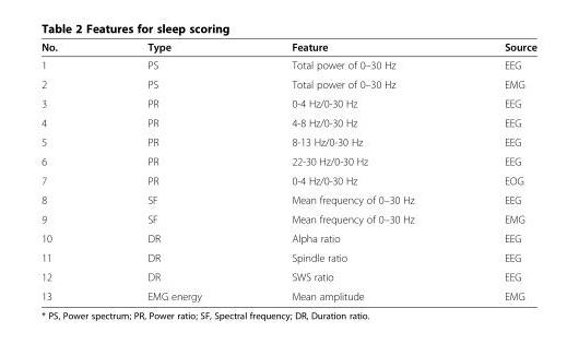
<table><thead><tr><td>No.</td><td>Type</td><td>Feature</td><td>Source</td></tr></thead><tbody><tr><td>1</td><td>PS</td><td>Total power of 0–30 Hz</td><td>EEG</td></tr><tr><td>2</td><td>PS</td><td>Total power of 0–30 Hz</td><td>EMG</td></tr><tr><td>3</td><td>PR</td><td>0-4 Hz/0-30 Hz</td><td>EEG</td></tr><tr><td>4</td><td>PR</td><td>4-8 Hz/0-30 Hz</td><td>EEG</td></tr><tr><td>5</td><td>PR</td><td>8-13 Hz/0-30 Hz</td><td>EEG</td></tr><tr><td>6</td><td>PR</td><td>22-30 Hz/0-30 Hz</td><td>EEG</td></tr><tr><td>7</td><td>PR</td><td>0-4 Hz/0-30 Hz</td><td>EOG</td></tr><tr><td>8</td><td>SF</td><td>Mean frequency of 0–30 Hz</td><td>EEG</td></tr><tr><td>9</td><td>SF</td><td>Mean frequency of 0–30 Hz</td><td>EMG</td></tr><tr><td>10</td><td>DR</td><td>Alpha ratio</td><td>EEG</td></tr><tr><td>11</td><td>DR</td><td>Spindle ratio</td><td>EEG</td></tr><tr><td>12</td><td>DR</td><td>SWS ratio</td><td>EEG</td></tr><tr><td>13</td><td>EMG energy</td><td>Mean amplitude</td><td>EMG</td></tr></tbody></table>